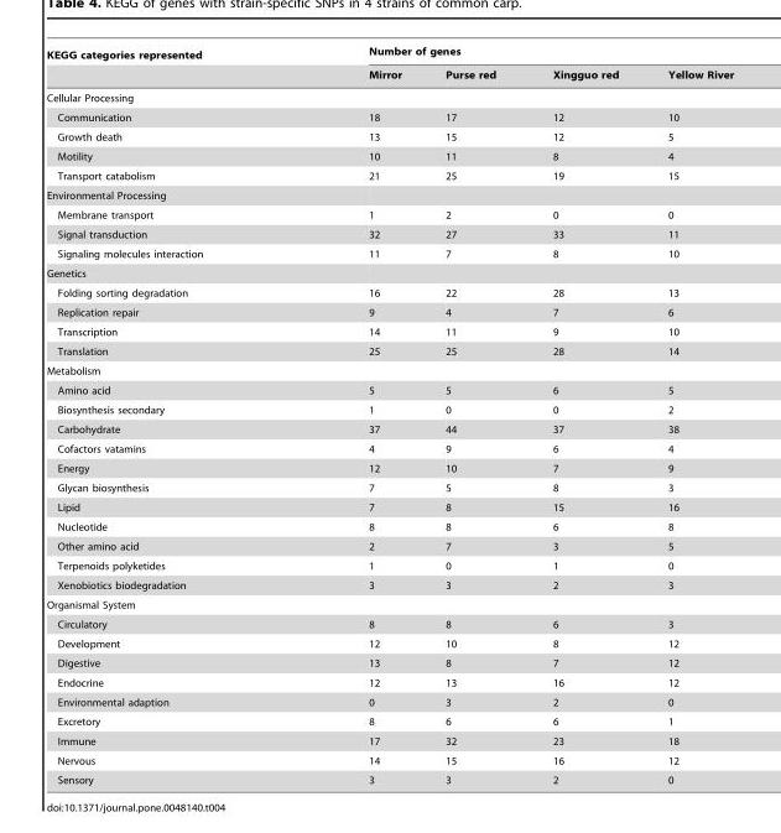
<table><thead><tr><td rowspan="2">KEGG categories represented</td><td colspan="4">Number of genes</td></tr><tr><td>Mirror</td><td>Purse red</td><td>Xingguo red</td><td>Yellow River</td></tr></thead><tbody><tr><td colspan="5">Cellular Processing</td></tr><tr><td>Communication</td><td>18</td><td>17</td><td>12</td><td>10</td></tr><tr><td>Growth death</td><td>13</td><td>15</td><td>12</td><td>5</td></tr><tr><td>Motility</td><td>10</td><td>11</td><td>8</td><td>4</td></tr><tr><td>Transport catabolism</td><td>21</td><td>25</td><td>19</td><td>15</td></tr><tr><td colspan="5">Environmental Processing</td></tr><tr><td>Membrane transport</td><td>1</td><td>2</td><td>0</td><td>0</td></tr><tr><td>Signal transduction</td><td>32</td><td>27</td><td>33</td><td>11</td></tr><tr><td>Signaling molecules interaction</td><td>11</td><td>7</td><td>8</td><td>10</td></tr><tr><td colspan="5">Genetics</td></tr><tr><td>Folding sorting degradation</td><td>16</td><td>22</td><td>28</td><td>13</td></tr><tr><td>Replication repair</td><td>9</td><td>4</td><td>7</td><td>6</td></tr><tr><td>Transcription</td><td>14</td><td>11</td><td>9</td><td>10</td></tr><tr><td>Translation</td><td>25</td><td>25</td><td>28</td><td>14</td></tr><tr><td colspan="5">Metabolism</td></tr><tr><td>Amino acid</td><td>5</td><td>5</td><td>6</td><td>5</td></tr><tr><td>Biosynthesis secondary</td><td>1</td><td>0</td><td>0</td><td>2</td></tr><tr><td>Carbohydrate</td><td>37</td><td>44</td><td>37</td><td>38</td></tr><tr><td>Cofactors vatamins</td><td>4</td><td>9</td><td>6</td><td>4</td></tr><tr><td>Energy</td><td>12</td><td>10</td><td>7</td><td>9</td></tr><tr><td>Glycan biosynthesis</td><td>7</td><td>5</td><td>8</td><td>3</td></tr><tr><td>Lipid</td><td>7</td><td>8</td><td>15</td><td>16</td></tr><tr><td>Nucleotide</td><td>8</td><td>8</td><td>6</td><td>8</td></tr><tr><td>Other amino acid</td><td>2</td><td>7</td><td>3</td><td>5</td></tr><tr><td>Terpenoids polyketides</td><td>1</td><td>0</td><td>1</td><td>0</td></tr><tr><td>Xenobiotics biodegradation</td><td>3</td><td>3</td><td>2</td><td>3</td></tr><tr><td colspan="5">Organismal System</td></tr><tr><td>Circulatory</td><td>8</td><td>8</td><td>6</td><td>3</td></tr><tr><td>Development</td><td>12</td><td>10</td><td>8</td><td>12</td></tr><tr><td>Digestive</td><td>13</td><td>8</td><td>7</td><td>12</td></tr><tr><td>Endocrine</td><td>12</td><td>13</td><td>16</td><td>12</td></tr><tr><td>Environmental adaption</td><td>0</td><td>3</td><td>2</td><td>0</td></tr><tr><td>Excretory</td><td>8</td><td>6</td><td>6</td><td>1</td></tr><tr><td>Immune</td><td>17</td><td>32</td><td>23</td><td>18</td></tr><tr><td>Nervous</td><td>14</td><td>15</td><td>16</td><td>12</td></tr><tr><td>Sensory</td><td>3</td><td>3</td><td>2</td><td>0</td></tr></tbody></table>